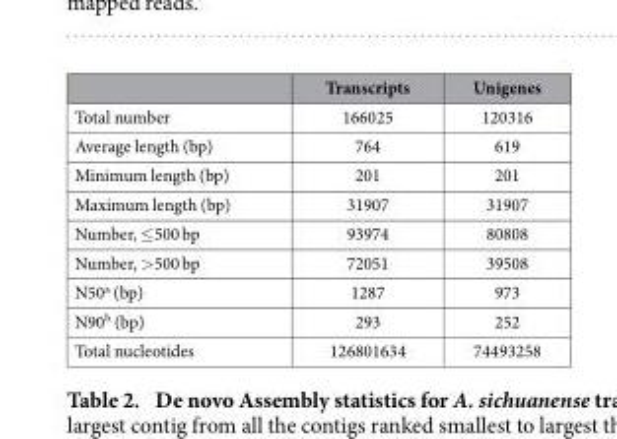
<table><thead><tr><td></td><td>Transcripts</td><td>Unigenes</td></tr></thead><tbody><tr><td>Total number</td><td>166025</td><td>120316</td></tr><tr><td>Average length (bp)</td><td>764</td><td>619</td></tr><tr><td>Minimum length (bp)</td><td>201</td><td>201</td></tr><tr><td>Maximum length (bp)</td><td>31907</td><td>31907</td></tr><tr><td>Number, ≤ 500 bp</td><td>93974</td><td>80808</td></tr><tr><td>Number, &gt; 500 bp</td><td>72051</td><td>39508</td></tr><tr><td>N50<sup>a</sup> (bp)</td><td>1287</td><td>973</td></tr><tr><td>N90<sup>b</sup> (bp)</td><td>293</td><td>252</td></tr><tr><td>Total nucleotides</td><td>126801634</td><td>74493258</td></tr></tbody></table>